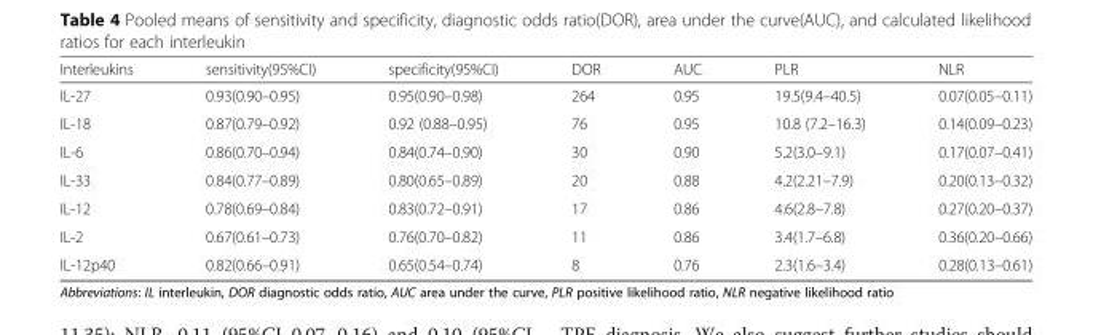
<table><thead><tr><td>Interleukins</td><td>sensitivity(95%CI)</td><td>specificity(95%CI)</td><td>DOR</td><td>AUC</td><td>PLR</td><td>NLR</td></tr></thead><tbody><tr><td>IL-27</td><td>0.93(0.90–0.95)</td><td>0.95(0.90–0.98)</td><td>264</td><td>0.95</td><td>19.5(9.4–40.5)</td><td>0.07(0.05–0.11)</td></tr><tr><td>IL-18</td><td>0.87(0.79–0.92)</td><td>0.92 (0.88–0.95)</td><td>76</td><td>0.95</td><td>10.8 (7.2–16.3)</td><td>0.14(0.09–0.23)</td></tr><tr><td>IL-6</td><td>0.86(0.70–0.94)</td><td>0.84(0.74–0.90)</td><td>30</td><td>0.90</td><td>5.2(3.0–9.1)</td><td>0.17(0.07–0.41)</td></tr><tr><td>IL-33</td><td>0.84(0.77–0.89)</td><td>0.80(0.65–0.89)</td><td>20</td><td>0.88</td><td>4.2(2.21–7.9)</td><td>0.20(0.13–0.32)</td></tr><tr><td>IL-12</td><td>0.78(0.69–0.84)</td><td>0.83(0.72–0.91)</td><td>17</td><td>0.86</td><td>4.6(2.8–7.8)</td><td>0.27(0.20–0.37)</td></tr><tr><td>IL-2</td><td>0.67(0.61–0.73)</td><td>0.76(0.70–0.82)</td><td>11</td><td>0.86</td><td>3.4(1.7–6.8)</td><td>0.36(0.20–0.66)</td></tr><tr><td>IL-12p40</td><td>0.82(0.66–0.91)</td><td>0.65(0.54–0.74)</td><td>8</td><td>0.76</td><td>2.3(1.6–3.4)</td><td>0.28(0.13–0.61)</td></tr></tbody></table>